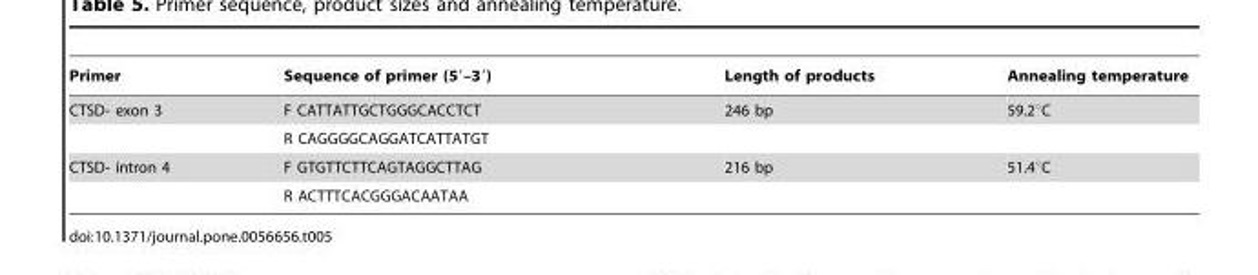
<table><thead><tr><td>Primer</td><td>Sequence of primer (5′–3′)</td><td>Length of products</td><td>Annealing temperature</td></tr></thead><tbody><tr><td rowspan="2">CTSD- exon 3</td><td>F CATTATTGCTGGGCACCTCT</td><td>246 bp</td><td>59.2°C</td></tr><tr><td>R CAGGGGCAGGATCATTATGT</td><td></td><td></td></tr><tr><td rowspan="2">CTSD- intron 4</td><td>F GTGTTCTTCAGTAGGCTTAG</td><td>216 bp</td><td>51.4°C</td></tr><tr><td>R ACTTTCACGGGACAATAA</td><td></td><td></td></tr></tbody></table>